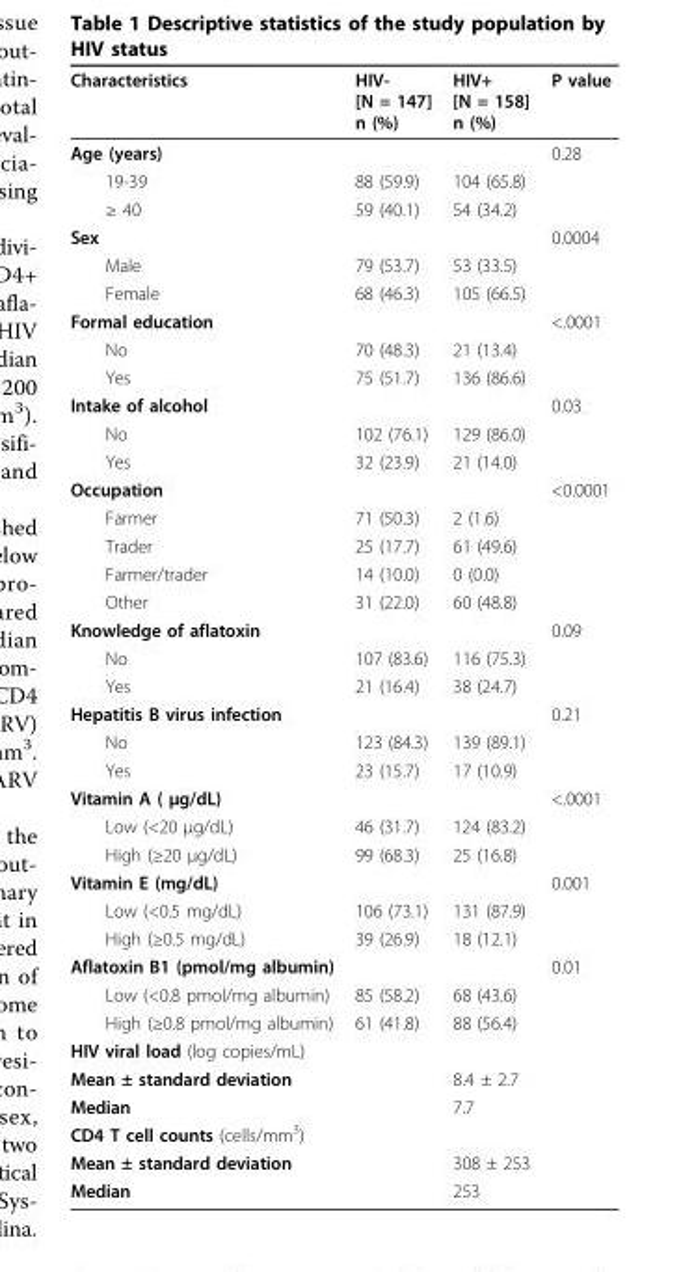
<table><thead><tr><td>Characteristics</td><td>HIV- [N = 147] n (%)</td><td>HIV+ [N = 158] n (%)</td><td>P value</td></tr></thead><tbody><tr><td>Age (years)</td><td></td><td></td><td>0.28</td></tr><tr><td>19-39</td><td>88 (59.9)</td><td>104 (65.8)</td><td></td></tr><tr><td>≥ 40</td><td>59 (40.1)</td><td>54 (34.2)</td><td></td></tr><tr><td>Sex</td><td></td><td></td><td>0.0004</td></tr><tr><td>Male</td><td>79 (53.7)</td><td>53 (33.5)</td><td></td></tr><tr><td>Female</td><td>68 (46.3)</td><td>105 (66.5)</td><td></td></tr><tr><td>Formal education</td><td></td><td></td><td>&lt;.0001</td></tr><tr><td>No</td><td>70 (48.3)</td><td>21 (13.4)</td><td></td></tr><tr><td>Yes</td><td>75 (51.7)</td><td>136 (86.6)</td><td></td></tr><tr><td>Intake of alcohol</td><td></td><td></td><td>0.03</td></tr><tr><td>No</td><td>102 (76.1)</td><td>129 (86.0)</td><td></td></tr><tr><td>Yes</td><td>32 (23.9)</td><td>21 (14.0)</td><td></td></tr><tr><td>Occupation</td><td></td><td></td><td>&lt;0.0001</td></tr><tr><td>Farmer</td><td>71 (50.3)</td><td>2 (1.6)</td><td></td></tr><tr><td>Trader</td><td>25 (17.7)</td><td>61 (49.6)</td><td></td></tr><tr><td>Farmer/trader</td><td>14 (10.0)</td><td>0 (0.0)</td><td></td></tr><tr><td>Other</td><td>31 (22.0)</td><td>60 (48.8)</td><td></td></tr><tr><td>Knowledge of aflatoxin</td><td></td><td></td><td>0.09</td></tr><tr><td>No</td><td>107 (83.6)</td><td>116 (75.3)</td><td></td></tr><tr><td>Yes</td><td>21 (16.4)</td><td>38 (24.7)</td><td></td></tr><tr><td>Hepatitis B virus infection</td><td></td><td></td><td>0.21</td></tr><tr><td>No</td><td>123 (84.3)</td><td>139 (89.1)</td><td></td></tr><tr><td>Yes</td><td>23 (15.7)</td><td>17 (10.9)</td><td></td></tr><tr><td>Vitamin A ( μg/dL)</td><td></td><td></td><td>&lt;.0001</td></tr><tr><td>Low (&lt;20 μg/dL)</td><td>46 (31.7)</td><td>124 (83.2)</td><td></td></tr><tr><td>High (≥20 μg/dL)</td><td>99 (68.3)</td><td>25 (16.8)</td><td></td></tr><tr><td>Vitamin E (mg/dL)</td><td></td><td></td><td>0.001</td></tr><tr><td>Low (&lt;0.5 mg/dL)</td><td>106 (73.1)</td><td>131 (87.9)</td><td></td></tr><tr><td>High (≥0.5 mg/dL)</td><td>39 (26.9)</td><td>18 (12.1)</td><td></td></tr><tr><td>Aflatoxin B1 (pmol/mg albumin)</td><td></td><td></td><td>0.01</td></tr><tr><td>Low (&lt;0.8 pmol/mg albumin)</td><td>85 (58.2)</td><td>68 (43.6)</td><td></td></tr><tr><td>High (≥0.8 pmol/mg albumin)</td><td>61 (41.8)</td><td>88 (56.4)</td><td></td></tr><tr><td colspan="4">HIV viral load (log copies/mL)</td></tr><tr><td>Mean ± standard deviation</td><td></td><td>8.4 ± 2.7</td><td></td></tr><tr><td>Median</td><td></td><td>7.7</td><td></td></tr><tr><td colspan="4">CD4 T cell counts (cells/mm<sup>3</sup>)</td></tr><tr><td>Mean ± standard deviation</td><td></td><td>308 ± 253</td><td></td></tr><tr><td>Median</td><td></td><td>253</td><td></td></tr></tbody></table>